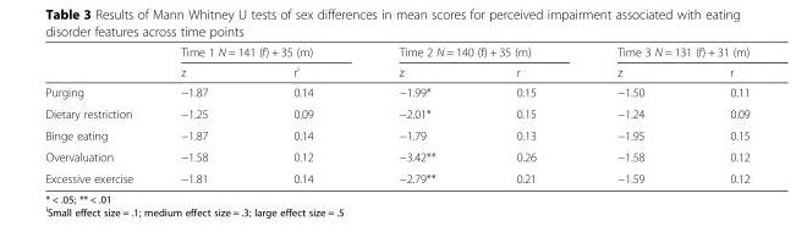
<table><thead><tr><td rowspan="2"></td><td colspan="2">Time 1 N = 141 (f) + 35 (m)</td><td colspan="2">Time 2 N = 140 (f) + 35 (m)</td><td colspan="2">Time 3 N = 131 (f) + 31 (m)</td></tr><tr><td>z</td><td>r<sup>i</sup></td><td>z</td><td>r</td><td>z</td><td>r</td></tr></thead><tbody><tr><td>Purging</td><td>−1.87</td><td>0.14</td><td>−1.99*</td><td>0.15</td><td>−1.50</td><td>0.11</td></tr><tr><td>Dietary restriction</td><td>−1.25</td><td>0.09</td><td>−2.01*</td><td>0.15</td><td>−1.24</td><td>0.09</td></tr><tr><td>Binge eating</td><td>−1.87</td><td>0.14</td><td>−1.79</td><td>0.13</td><td>−1.95</td><td>0.15</td></tr><tr><td>Overvaluation</td><td>−1.58</td><td>0.12</td><td>−3.42**</td><td>0.26</td><td>−1.58</td><td>0.12</td></tr><tr><td>Excessive exercise</td><td>−1.81</td><td>0.14</td><td>−2.79**</td><td>0.21</td><td>−1.59</td><td>0.12</td></tr></tbody></table>